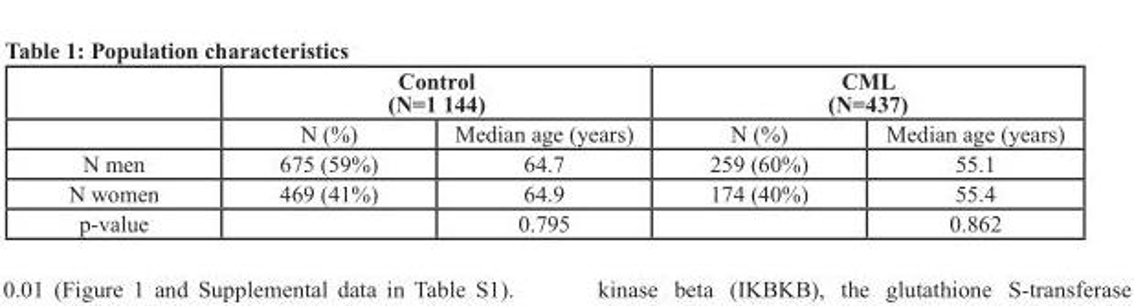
<table><thead><tr><td rowspan="2"></td><td colspan="2">Control (N=1 144)</td><td colspan="2">CML (N=437)</td></tr><tr><td>N (%)</td><td>Median age (years)</td><td>N (%)</td><td>Median age (years)</td></tr></thead><tbody><tr><td>N men</td><td>675 (59%)</td><td>64.7</td><td>259 (60%)</td><td>55.1</td></tr><tr><td>N women</td><td>469 (41%)</td><td>64.9</td><td>174 (40%)</td><td>55.4</td></tr><tr><td>p-value</td><td></td><td>0.795</td><td></td><td>0.862</td></tr></tbody></table>